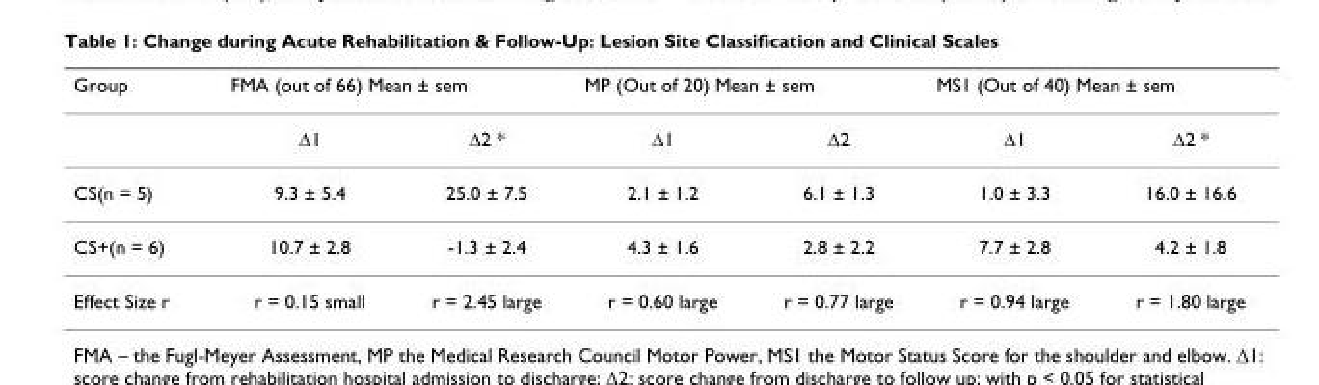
<table><thead><tr><td rowspan="2">Group</td><td colspan="2">FMA (out of 66) Mean ± sem</td><td colspan="2">MP (Out of 20) Mean ± sem</td><td colspan="2">MS1 (Out of 40) Mean ± sem</td></tr><tr><td>Δ1</td><td>Δ2 *</td><td>Δ1</td><td>Δ2</td><td>Δ1</td><td>Δ2 *</td></tr></thead><tbody><tr><td>CS(n = 5)</td><td>9.3 ± 5.4</td><td>25.0 ± 7.5</td><td>2.1 ± 1.2</td><td>6.1 ± 1.3</td><td>1.0 ± 3.3</td><td>16.0 ± 16.6</td></tr><tr><td>CS+(n = 6)</td><td>10.7 ± 2.8</td><td>-1.3 ± 2.4</td><td>4.3 ± 1.6</td><td>2.8 ± 2.2</td><td>7.7 ± 2.8</td><td>4.2 ± 1.8</td></tr><tr><td>Effect Size r</td><td>r = 0.15 small</td><td>r = 2.45 large</td><td>r = 0.60 large</td><td>r = 0.77 large</td><td>r = 0.94 large</td><td>r = 1.80 large</td></tr></tbody></table>